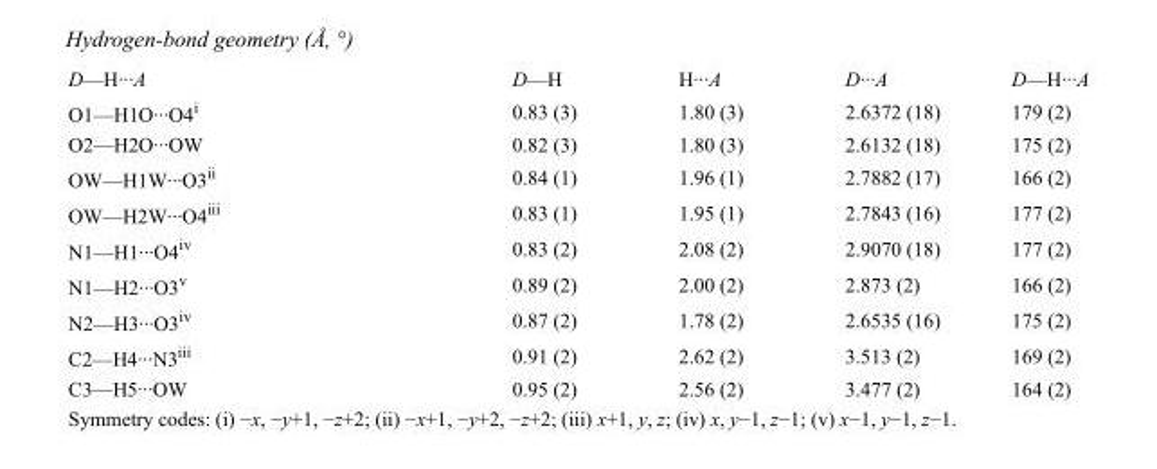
<table><tbody><tr><td>D—H···A</td><td>D—H</td><td>H···A</td><td>D···A</td><td>D—H···A</td></tr><tr><td>O1—H1O···O4<sup>i</sup></td><td>0.83 (3)</td><td>1.80 (3)</td><td>2.6372 (18)</td><td>179 (2)</td></tr><tr><td>O2—H2O···OW</td><td>0.82 (3)</td><td>1.80 (3)</td><td>2.6132 (18)</td><td>175 (2)</td></tr><tr><td>OW—H1W···O3<sup>ii</sup></td><td>0.84 (1)</td><td>1.96 (1)</td><td>2.7882 (17)</td><td>166 (2)</td></tr><tr><td>OW—H2W···O4<sup>iii</sup></td><td>0.83 (1)</td><td>1.95 (1)</td><td>2.7843 (16)</td><td>177 (2)</td></tr><tr><td>N1—H1···O4<sup>iv</sup></td><td>0.83 (2)</td><td>2.08 (2)</td><td>2.9070 (18)</td><td>177 (2)</td></tr><tr><td>N1—H2···O3<sup>v</sup></td><td>0.89 (2)</td><td>2.00 (2)</td><td>2.873 (2)</td><td>166 (2)</td></tr><tr><td>N2—H3···O3<sup>iv</sup></td><td>0.87 (2)</td><td>1.78 (2)</td><td>2.6535 (16)</td><td>175 (2)</td></tr><tr><td>C2—H4···N3<sup>iii</sup></td><td>0.91 (2)</td><td>2.62 (2)</td><td>3.513 (2)</td><td>169 (2)</td></tr><tr><td>C3—H5···OW</td><td>0.95 (2)</td><td>2.56 (2)</td><td>3.477 (2)</td><td>164 (2)</td></tr></tbody></table>